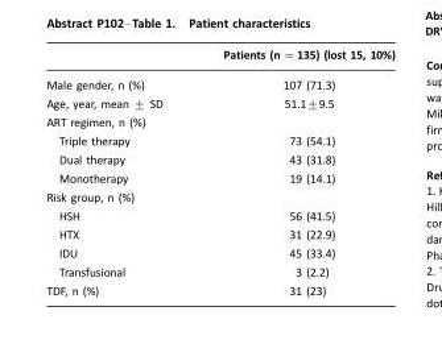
<table><thead><tr><td></td><td>Patients (n =135) (lost 15, 10%)</td></tr></thead><tbody><tr><td>Male gender, n (%)</td><td>107 (71.3)</td></tr><tr><td>Age, year, mean ± SD</td><td>51.1±9.5</td></tr><tr><td colspan="2">ART regimen, n (%)</td></tr><tr><td>Triple therapy</td><td>73 (54.1)</td></tr><tr><td>Dual therapy</td><td>43 (31.8)</td></tr><tr><td>Monotherapy</td><td>19 (14.1)</td></tr><tr><td colspan="2">Risk group, n (%)</td></tr><tr><td>HSH</td><td>56 (41.5)</td></tr><tr><td>HTX</td><td>31 (22.9)</td></tr><tr><td>IDU</td><td>45 (33.4)</td></tr><tr><td>Transfusional</td><td>3 (2.2)</td></tr><tr><td>TDF, n (%)</td><td>31 (23)</td></tr></tbody></table>